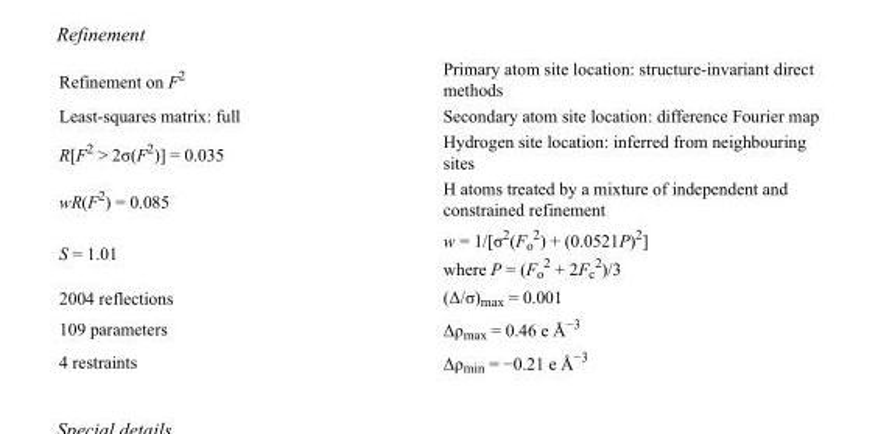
<table><tbody><tr><td>Refinement on F<sup>2</sup></td><td>Primary atom site location: structure-invariant direct methods</td></tr><tr><td>Least-squares matrix: full</td><td>Secondary atom site location: difference Fourier map</td></tr><tr><td>R[F<sup>2</sup> &gt; 2σ(F<sup>2</sup>)] = 0.035</td><td>Hydrogen site location: inferred from neighbouring sites</td></tr><tr><td>wR(F<sup>2</sup>) = 0.085</td><td>H atoms treated by a mixture of independent and constrained refinement</td></tr><tr><td>S = 1.01</td><td>w = 1/[σ<sup>2</sup>(F<sub>o</sub> <sup>2</sup>) + (0.0521P)<sup>2</sup>] where P = (F<sub>o</sub> <sup>2</sup> + 2F<sub>c</sub> <sup>2</sup>)/3</td></tr><tr><td>2004 reflections</td><td>(Δ/σ)<sub>max</sub> = 0.001</td></tr><tr><td>109 parameters</td><td>Δρ<sub>max</sub> = 0.46 e Å<sup>−3</sup></td></tr><tr><td>4 restraints</td><td>Δρ<sub>min</sub> = −0.21 e Å<sup>−3</sup></td></tr></tbody></table>